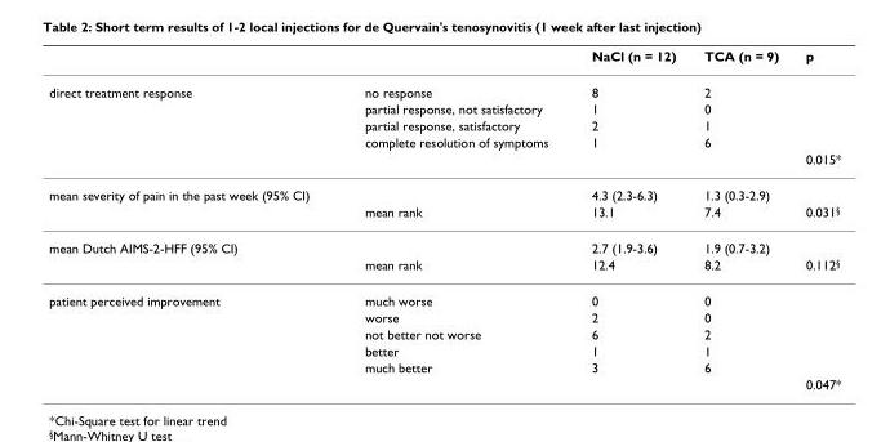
<table><thead><tr><td></td><td></td><td>NaCl (n = 12)</td><td>TCA (n = 9)</td><td>p</td></tr></thead><tbody><tr><td rowspan="5">direct treatment response</td><td>no response</td><td>8</td><td>2</td><td></td></tr><tr><td>partial response, not satisfactory</td><td>1</td><td>0</td><td></td></tr><tr><td>partial response, satisfactory</td><td>2</td><td>1</td><td></td></tr><tr><td>complete resolution of symptoms</td><td>1</td><td>6</td><td></td></tr><tr><td></td><td></td><td></td><td>0.015*</td></tr><tr><td rowspan="2">mean severity of pain in the past week (95% CI)</td><td></td><td>4.3 (2.3-6.3)</td><td>1.3 (0.3-2.9)</td><td></td></tr><tr><td>mean rank</td><td>13.1</td><td>7.4</td><td>0.031<sup>§</sup></td></tr><tr><td rowspan="2">mean Dutch AIMS-2-HFF (95% CI)</td><td></td><td>2.7 (1.9-3.6)</td><td>1.9 (0.7-3.2)</td><td></td></tr><tr><td>mean rank</td><td>12.4</td><td>8.2</td><td>0.112<sup>§</sup></td></tr><tr><td rowspan="6">patient perceived improvement</td><td>much worse</td><td>0</td><td>0</td><td></td></tr><tr><td>worse</td><td>2</td><td>0</td><td></td></tr><tr><td>not better not worse</td><td>6</td><td>2</td><td></td></tr><tr><td>better</td><td>1</td><td>1</td><td></td></tr><tr><td>much better</td><td>3</td><td>6</td><td></td></tr><tr><td></td><td></td><td></td><td>0.047*</td></tr></tbody></table>